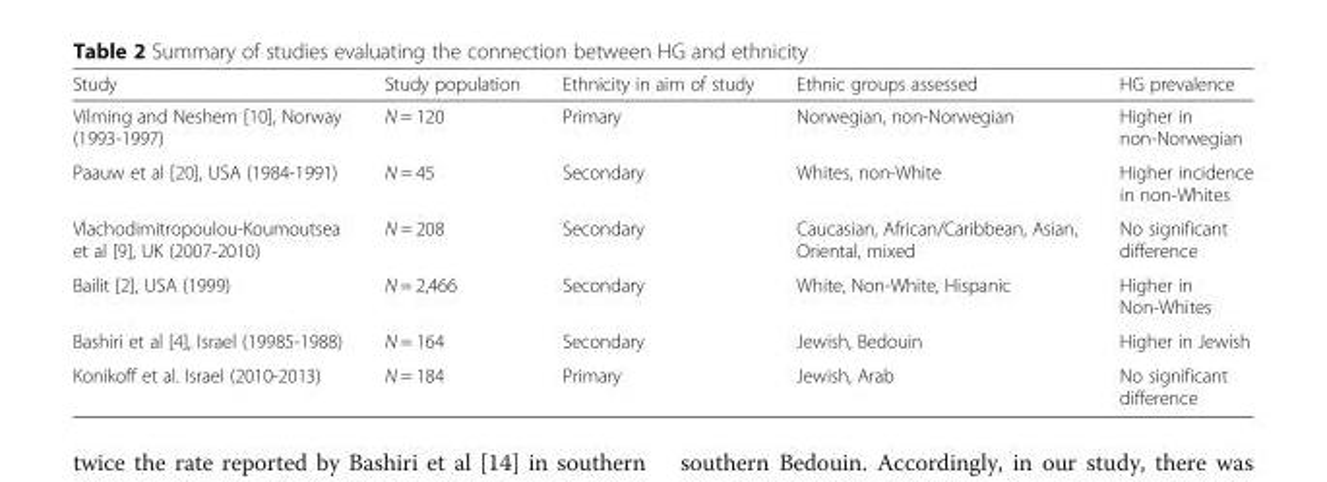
<table><thead><tr><td>Study</td><td>Study population</td><td>Ethnicity in aim of study</td><td>Ethnic groups assessed</td><td>HG prevalence</td></tr></thead><tbody><tr><td>Vilming and Neshem [10], Norway (1993-1997)</td><td>N = 120</td><td>Primary</td><td>Norwegian, non-Norwegian</td><td>Higher in non-Norwegian</td></tr><tr><td>Paauw et al [20], USA (1984-1991)</td><td>N = 45</td><td>Secondary</td><td>Whites, non-White</td><td>Higher incidence in non-Whites</td></tr><tr><td>Vlachodimitropoulou-Koumoutsea et al [9], UK (2007-2010)</td><td>N = 208</td><td>Secondary</td><td>Caucasian, African/Caribbean, Asian, Oriental, mixed</td><td>No significant difference</td></tr><tr><td>Bailit [2], USA (1999)</td><td>N = 2,466</td><td>Secondary</td><td>White, Non-White, Hispanic</td><td>Higher in Non-Whites</td></tr><tr><td>Bashiri et al [4], Israel (19985-1988)</td><td>N = 164</td><td>Secondary</td><td>Jewish, Bedouin</td><td>Higher in Jewish</td></tr><tr><td>Konikoff et al. Israel (2010-2013)</td><td>N = 184</td><td>Primary</td><td>Jewish, Arab</td><td>No significant difference</td></tr></tbody></table>